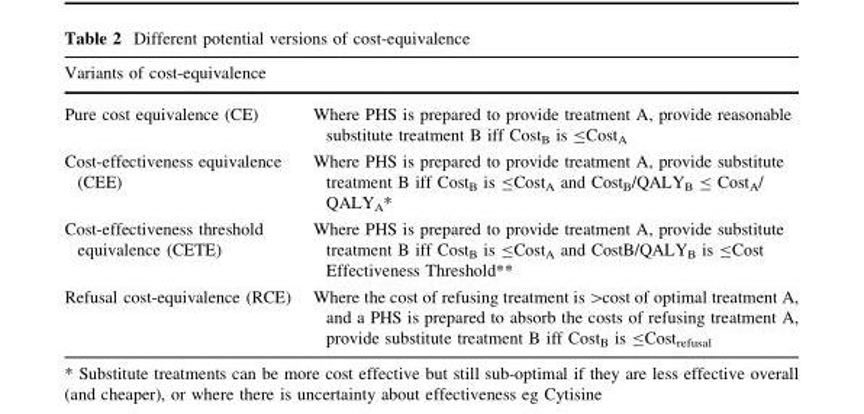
<table><thead><tr><td colspan="2">Variants of cost-equivalence</td></tr><tr><td>Pure cost equivalence (CE)</td><td>Where PHS is prepared to provide treatment A, provide reasonable substitute treatment B iff Cost<sub>B</sub> is ≤Cost<sub>A</sub></td></tr></thead><tbody><tr><td>Cost-effectiveness equivalence (CEE)</td><td>Where PHS is prepared to provide treatment A, provide substitute treatment B iff Cost<sub>B</sub> is ≤Cost<sub>A</sub> and Cost<sub>B</sub>/QALY<sub>B</sub> ≤ Cost<sub>A</sub>/ QALY<sub>A</sub>*</td></tr><tr><td>Cost-effectiveness threshold equivalence (CETE)</td><td>Where PHS is prepared to provide treatment A, provide substitute treatment B iff Cost<sub>B</sub> is ≤Cost<sub>A</sub> and CostB/QALY<sub>B</sub> is ≤Cost Effectiveness Threshold**</td></tr><tr><td>Refusal cost-equivalence (RCE)</td><td>Where the cost of refusing treatment is &gt;cost of optimal treatment A, and a PHS is prepared to absorb the costs of refusing treatment A, provide substitute treatment B iff Cost<sub>B</sub> is ≤Cost<sub>refusal</sub></td></tr></tbody></table>